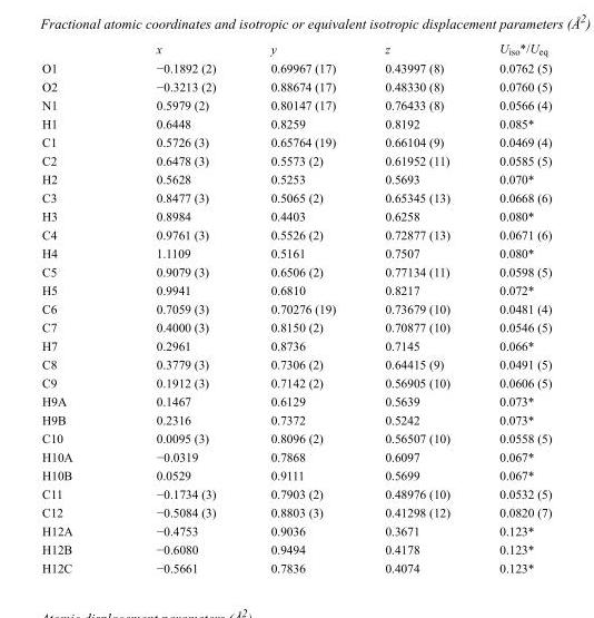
<table><thead><tr><td></td><td>x</td><td>y</td><td>z</td><td>U<sub>iso</sub>*/U<sub>eq</sub></td></tr></thead><tbody><tr><td>O1</td><td>−0.1892 (2)</td><td>0.69967 (17)</td><td>0.43997 (8)</td><td>0.0762 (5)</td></tr><tr><td>O2</td><td>−0.3213 (2)</td><td>0.88674 (17)</td><td>0.48330 (8)</td><td>0.0760 (5)</td></tr><tr><td>N1</td><td>0.5979 (2)</td><td>0.80147 (17)</td><td>0.76433 (8)</td><td>0.0566 (4)</td></tr><tr><td>H1</td><td>0.6448</td><td>0.8259</td><td>0.8192</td><td>0.085*</td></tr><tr><td>C1</td><td>0.5726 (3)</td><td>0.65764 (19)</td><td>0.66104 (9)</td><td>0.0469 (4)</td></tr><tr><td>C2</td><td>0.6478 (3)</td><td>0.5573 (2)</td><td>0.61952 (11)</td><td>0.0585 (5)</td></tr><tr><td>H2</td><td>0.5628</td><td>0.5253</td><td>0.5693</td><td>0.070*</td></tr><tr><td>C3</td><td>0.8477 (3)</td><td>0.5065 (2)</td><td>0.65345 (13)</td><td>0.0668 (6)</td></tr><tr><td>H3</td><td>0.8984</td><td>0.4403</td><td>0.6258</td><td>0.080*</td></tr><tr><td>C4</td><td>0.9761 (3)</td><td>0.5526 (2)</td><td>0.72877 (13)</td><td>0.0671 (6)</td></tr><tr><td>H4</td><td>1.1109</td><td>0.5161</td><td>0.7507</td><td>0.080*</td></tr><tr><td>C5</td><td>0.9079 (3)</td><td>0.6506 (2)</td><td>0.77134 (11)</td><td>0.0598 (5)</td></tr><tr><td>H5</td><td>0.9941</td><td>0.6810</td><td>0.8217</td><td>0.072*</td></tr><tr><td>C6</td><td>0.7059 (3)</td><td>0.70276 (19)</td><td>0.73679 (10)</td><td>0.0481 (4)</td></tr><tr><td>C7</td><td>0.4000 (3)</td><td>0.8150 (2)</td><td>0.70877 (10)</td><td>0.0546 (5)</td></tr><tr><td>H7</td><td>0.2961</td><td>0.8736</td><td>0.7145</td><td>0.066*</td></tr><tr><td>C8</td><td>0.3779 (3)</td><td>0.7306 (2)</td><td>0.64415 (9)</td><td>0.0491 (5)</td></tr><tr><td>C9</td><td>0.1912 (3)</td><td>0.7142 (2)</td><td>0.56905 (10)</td><td>0.0606 (5)</td></tr><tr><td>H9A</td><td>0.1467</td><td>0.6129</td><td>0.5639</td><td>0.073*</td></tr><tr><td>H9B</td><td>0.2316</td><td>0.7372</td><td>0.5242</td><td>0.073*</td></tr><tr><td>C10</td><td>0.0095 (3)</td><td>0.8096 (2)</td><td>0.56507 (10)</td><td>0.0558 (5)</td></tr><tr><td>H10A</td><td>−0.0319</td><td>0.7868</td><td>0.6097</td><td>0.067*</td></tr><tr><td>H10B</td><td>0.0529</td><td>0.9111</td><td>0.5699</td><td>0.067*</td></tr><tr><td>C11</td><td>−0.1734 (3)</td><td>0.7903 (2)</td><td>0.48976 (10)</td><td>0.0532 (5)</td></tr><tr><td>C12</td><td>−0.5084 (3)</td><td>0.8803 (3)</td><td>0.41298 (12)</td><td>0.0820 (7)</td></tr><tr><td>H12A</td><td>−0.4753</td><td>0.9036</td><td>0.3671</td><td>0.123*</td></tr><tr><td>H12B</td><td>−0.6080</td><td>0.9494</td><td>0.4178</td><td>0.123*</td></tr><tr><td>H12C</td><td>−0.5661</td><td>0.7836</td><td>0.4074</td><td>0.123*</td></tr></tbody></table>